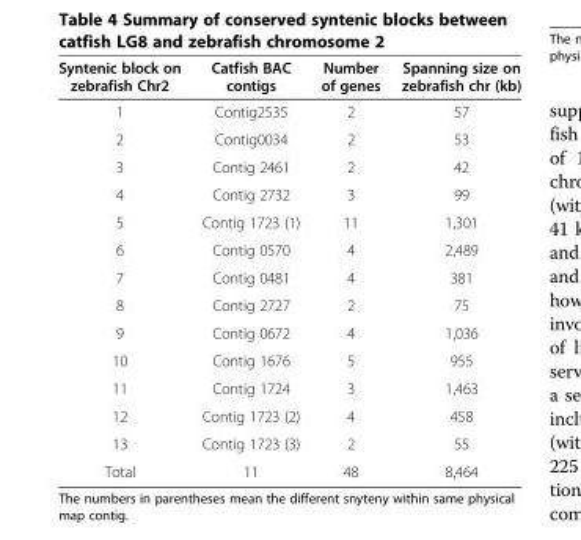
<table><thead><tr><td>Syntenic block on zebrafish Chr2</td><td>Catfish BAC contigs</td><td>Number of genes</td><td>Spanning size on zebrafish chr (kb)</td></tr></thead><tbody><tr><td>1</td><td>Contig2535</td><td>2</td><td>57</td></tr><tr><td>2</td><td>Contig0034</td><td>2</td><td>53</td></tr><tr><td>3</td><td>Contig 2461</td><td>2</td><td>42</td></tr><tr><td>4</td><td>Contig 2732</td><td>3</td><td>99</td></tr><tr><td>5</td><td>Contig 1723 (1)</td><td>11</td><td>1,301</td></tr><tr><td>6</td><td>Contig 0570</td><td>4</td><td>2,489</td></tr><tr><td>7</td><td>Contig 0481</td><td>4</td><td>381</td></tr><tr><td>8</td><td>Contig 2727</td><td>2</td><td>75</td></tr><tr><td>9</td><td>Contig 0672</td><td>4</td><td>1,036</td></tr><tr><td>10</td><td>Contig 1676</td><td>5</td><td>955</td></tr><tr><td>11</td><td>Contig 1724</td><td>3</td><td>1,463</td></tr><tr><td>12</td><td>Contig 1723 (2)</td><td>4</td><td>458</td></tr><tr><td>13</td><td>Contig 1723 (3)</td><td>2</td><td>55</td></tr><tr><td>Total</td><td>11</td><td>48</td><td>8,464</td></tr></tbody></table>